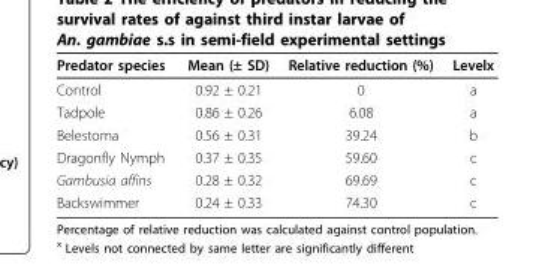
<table><thead><tr><td>Predator species</td><td>Mean (± SD)</td><td>Relative reduction (%)</td><td>Levelx</td></tr></thead><tbody><tr><td>Control</td><td>0.92 ± 0.21</td><td>0</td><td>a</td></tr><tr><td>Tadpole</td><td>0.86 ± 0.26</td><td>6.08</td><td>a</td></tr><tr><td>Belestoma</td><td>0.56 ± 0.31</td><td>39.24</td><td>b</td></tr><tr><td>Dragonfly Nymph</td><td>0.37 ± 0.35</td><td>59.60</td><td>c</td></tr><tr><td>Gambusia affins</td><td>0.28 ± 0.32</td><td>69.69</td><td>c</td></tr><tr><td>Backswimmer</td><td>0.24 ± 0.33</td><td>74.30</td><td>c</td></tr></tbody></table>